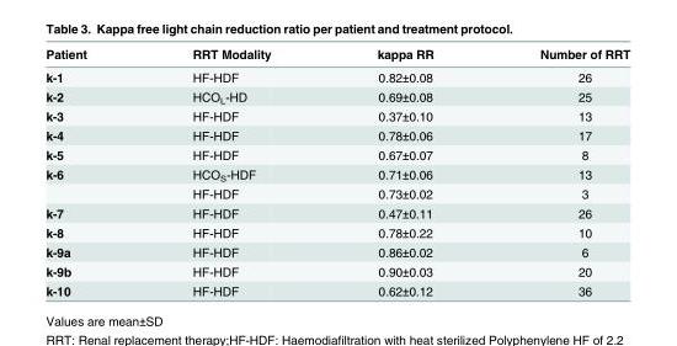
<table><thead><tr><td>Patient</td><td>RRT Modality</td><td>kappa RR</td><td>Number of RRT</td></tr></thead><tbody><tr><td>k-1</td><td>HF-HDF</td><td>0.82±0.08</td><td>26</td></tr><tr><td>k-2</td><td>HCO<sub>L</sub>-HD</td><td>0.69±0.08</td><td>25</td></tr><tr><td>k-3</td><td>HF-HDF</td><td>0.37±0.10</td><td>13</td></tr><tr><td>k-4</td><td>HF-HDF</td><td>0.78±0.06</td><td>17</td></tr><tr><td>k-5</td><td>HF-HDF</td><td>0.67±0.07</td><td>8</td></tr><tr><td rowspan="2">k-6</td><td>HCO<sub>S</sub>-HDF</td><td>0.71±0.06</td><td>13</td></tr><tr><td>HF-HDF</td><td>0.73±0.02</td><td>3</td></tr><tr><td>k-7</td><td>HF-HDF</td><td>0.47±0.11</td><td>26</td></tr><tr><td>k-8</td><td>HF-HDF</td><td>0.78±0.22</td><td>10</td></tr><tr><td>k-9a</td><td>HF-HDF</td><td>0.86±0.02</td><td>6</td></tr><tr><td>k-9b</td><td>HF-HDF</td><td>0.90±0.03</td><td>20</td></tr><tr><td>k-10</td><td>HF-HDF</td><td>0.62±0.12</td><td>36</td></tr></tbody></table>